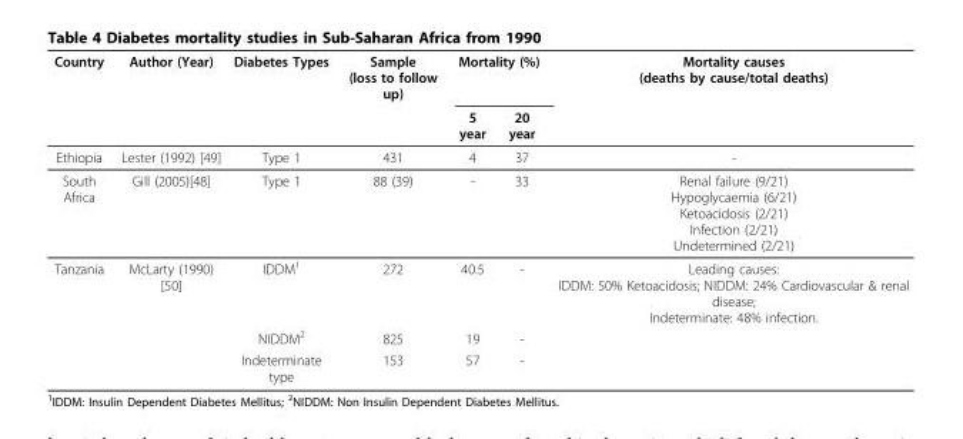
<table><thead><tr><td rowspan="2">Country</td><td rowspan="2">Author (Year)</td><td rowspan="2">Diabetes Types</td><td rowspan="2">Sample (loss to follow up)</td><td colspan="2">Mortality (%)</td><td rowspan="2">Mortality causes (deaths by cause/total deaths)</td></tr><tr><td>5 year</td><td>20 year</td></tr></thead><tbody><tr><td>Ethiopia</td><td>Lester (1992) [49]</td><td>Type 1</td><td>431</td><td>4</td><td>37</td><td>-</td></tr><tr><td>South Africa</td><td>Gill (2005)[48]</td><td>Type 1</td><td>88 (39)</td><td>-</td><td>33</td><td>Renal failure (9/21) Hypoglycaemia (6/21) Ketoacidosis (2/21) Infection (2/21) Undetermined (2/21)</td></tr><tr><td rowspan="3">Tanzania</td><td>McLarty (1990) [50]</td><td>IDDM<sup>1</sup></td><td>272</td><td>40.5</td><td>-</td><td>Leading causes: IDDM: 50% Ketoacidosis; NIDDM: 24% Cardiovascular &amp; renal disease; Indeterminate: 48% infection.</td></tr><tr><td></td><td>NIDDM<sup>2</sup></td><td>825</td><td>19</td><td>-</td><td></td></tr><tr><td></td><td>Indeterminate type</td><td>153</td><td>57</td><td>-</td><td></td></tr></tbody></table>